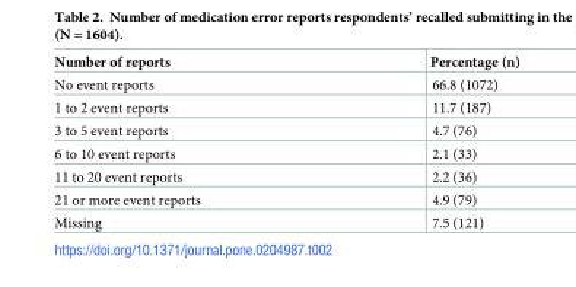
<table><thead><tr><td>Number of reports</td><td>Percentage (n)</td></tr></thead><tbody><tr><td>No event reports</td><td>66.8 (1072)</td></tr><tr><td>1 to 2 event reports</td><td>11.7 (187)</td></tr><tr><td>3 to 5 event reports</td><td>4.7 (76)</td></tr><tr><td>6 to 10 event reports</td><td>2.1 (33)</td></tr><tr><td>11 to 20 event reports</td><td>2.2 (36)</td></tr><tr><td>21 or more event reports</td><td>4.9 (79)</td></tr><tr><td>Missing</td><td>7.5 (121)</td></tr></tbody></table>